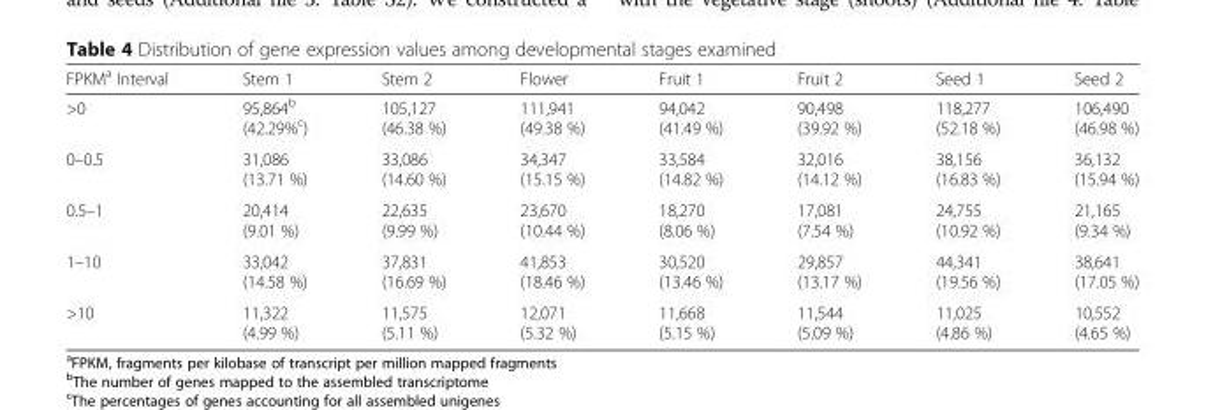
<table><thead><tr><td>FPKM<sup>a</sup> Interval</td><td>Stem 1</td><td>Stem 2</td><td>Flower</td><td>Fruit 1</td><td>Fruit 2</td><td>Seed 1</td><td>Seed 2</td></tr></thead><tbody><tr><td>&gt;0</td><td>95,864<sup>b</sup> (42.29%<sup>c</sup>)</td><td>105,127 (46.38 %)</td><td>111,941 (49.38 %)</td><td>94,042 (41.49 %)</td><td>90,498 (39.92 %)</td><td>118,277 (52.18 %)</td><td>106,490 (46.98 %)</td></tr><tr><td>0–0.5</td><td>31,086 (13.71 %)</td><td>33,086 (14.60 %)</td><td>34,347 (15.15 %)</td><td>33,584 (14.82 %)</td><td>32,016 (14.12 %)</td><td>38,156 (16.83 %)</td><td>36,132 (15.94 %)</td></tr><tr><td>0.5–1</td><td>20,414 (9.01 %)</td><td>22,635 (9.99 %)</td><td>23,670 (10.44 %)</td><td>18,270 (8.06 %)</td><td>17,081 (7.54 %)</td><td>24,755 (10.92 %)</td><td>21,165 (9.34 %)</td></tr><tr><td>1–10</td><td>33,042 (14.58 %)</td><td>37,831 (16.69 %)</td><td>41,853 (18.46 %)</td><td>30,520 (13.46 %)</td><td>29,857 (13.17 %)</td><td>44,341 (19.56 %)</td><td>38,641 (17.05 %)</td></tr><tr><td>&gt;10</td><td>11,322 (4.99 %)</td><td>11,575 (5.11 %)</td><td>12,071 (5.32 %)</td><td>11,668 (5.15 %)</td><td>11,544 (5.09 %)</td><td>11,025 (4.86 %)</td><td>10,552 (4.65 %)</td></tr></tbody></table>